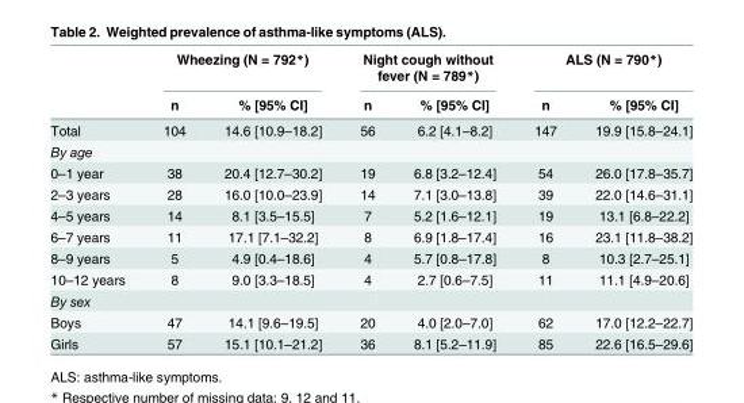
<table><thead><tr><td rowspan="2"></td><td colspan="2">Wheezing (N = 792*)</td><td colspan="2">Night cough without fever (N = 789*)</td><td colspan="2">ALS (N = 790*)</td></tr><tr><td>n</td><td>% [95% CI]</td><td>n</td><td>% [95% CI]</td><td>n</td><td>% [95% CI]</td></tr></thead><tbody><tr><td>Total</td><td>104</td><td>14.6 [10.9–18.2]</td><td>56</td><td>6.2 [4.1–8.2]</td><td>147</td><td>19.9 [15.8–24.1]</td></tr><tr><td colspan="7">By age</td></tr><tr><td>0–1 year</td><td>38</td><td>20.4 [12.7–30.2]</td><td>19</td><td>6.8 [3.2–12.4]</td><td>54</td><td>26.0 [17.8–35.7]</td></tr><tr><td>2–3 years</td><td>28</td><td>16.0 [10.0–23.9]</td><td>14</td><td>7.1 [3.0–13.8]</td><td>39</td><td>22.0 [14.6–31.1]</td></tr><tr><td>4–5 years</td><td>14</td><td>8.1 [3.5–15.5]</td><td>7</td><td>5.2 [1.6–12.1]</td><td>19</td><td>13.1 [6.8–22.2]</td></tr><tr><td>6–7 years</td><td>11</td><td>17.1 [7.1–32.2]</td><td>8</td><td>6.9 [1.8–17.4]</td><td>16</td><td>23.1 [11.8–38.2]</td></tr><tr><td>8–9 years</td><td>5</td><td>4.9 [0.4–18.6]</td><td>4</td><td>5.7 [0.8–17.8]</td><td>8</td><td>10.3 [2.7–25.1]</td></tr><tr><td>10–12 years</td><td>8</td><td>9.0 [3.3–18.5]</td><td>4</td><td>2.7 [0.6–7.5]</td><td>11</td><td>11.1 [4.9–20.6]</td></tr><tr><td colspan="7">By sex</td></tr><tr><td>Boys</td><td>47</td><td>14.1 [9.6–19.5]</td><td>20</td><td>4.0 [2.0–7.0]</td><td>62</td><td>17.0 [12.2–22.7]</td></tr><tr><td>Girls</td><td>57</td><td>15.1 [10.1–21.2]</td><td>36</td><td>8.1 [5.2–11.9]</td><td>85</td><td>22.6 [16.5–29.6]</td></tr></tbody></table>